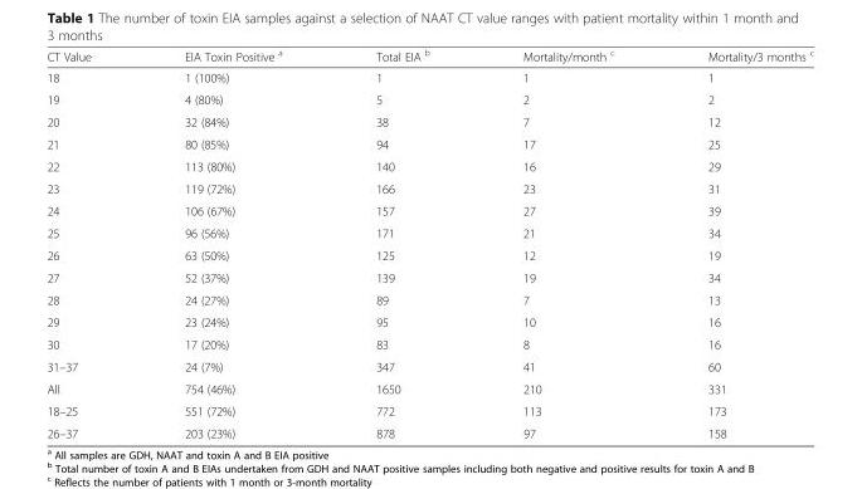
<table><thead><tr><td>CT Value</td><td>EIA Toxin Positive <sup>a</sup></td><td>Total EIA <sup>b</sup></td><td>Mortality/month <sup>c</sup></td><td>Mortality/3 months <sup>c</sup></td></tr></thead><tbody><tr><td>18</td><td>1 (100%)</td><td>1</td><td>1</td><td>1</td></tr><tr><td>19</td><td>4 (80%)</td><td>5</td><td>2</td><td>2</td></tr><tr><td>20</td><td>32 (84%)</td><td>38</td><td>7</td><td>12</td></tr><tr><td>21</td><td>80 (85%)</td><td>94</td><td>17</td><td>25</td></tr><tr><td>22</td><td>113 (80%)</td><td>140</td><td>16</td><td>29</td></tr><tr><td>23</td><td>119 (72%)</td><td>166</td><td>23</td><td>31</td></tr><tr><td>24</td><td>106 (67%)</td><td>157</td><td>27</td><td>39</td></tr><tr><td>25</td><td>96 (56%)</td><td>171</td><td>21</td><td>34</td></tr><tr><td>26</td><td>63 (50%)</td><td>125</td><td>12</td><td>19</td></tr><tr><td>27</td><td>52 (37%)</td><td>139</td><td>19</td><td>34</td></tr><tr><td>28</td><td>24 (27%)</td><td>89</td><td>7</td><td>13</td></tr><tr><td>29</td><td>23 (24%)</td><td>95</td><td>10</td><td>16</td></tr><tr><td>30</td><td>17 (20%)</td><td>83</td><td>8</td><td>16</td></tr><tr><td>31–37</td><td>24 (7%)</td><td>347</td><td>41</td><td>60</td></tr><tr><td>All</td><td>754 (46%)</td><td>1650</td><td>210</td><td>331</td></tr><tr><td>18–25</td><td>551 (72%)</td><td>772</td><td>113</td><td>173</td></tr><tr><td>26–37</td><td>203 (23%)</td><td>878</td><td>97</td><td>158</td></tr></tbody></table>